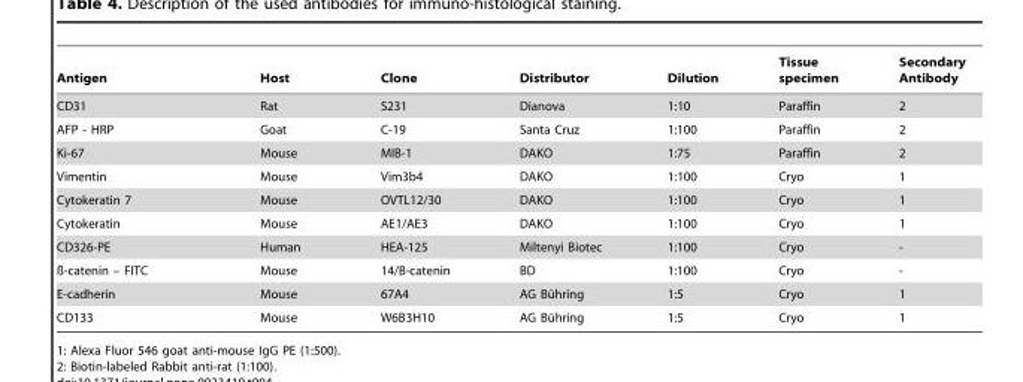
<table><thead><tr><td>Antigen</td><td>Host</td><td>Clone</td><td>Distributor</td><td>Dilution</td><td>Tissue specimen</td><td>Secondary Antibody</td></tr></thead><tbody><tr><td>CD31</td><td>Rat</td><td>S231</td><td>Dianova</td><td>1:10</td><td>Paraffin</td><td>2</td></tr><tr><td>AFP - HRP</td><td>Goat</td><td>C-19</td><td>Santa Cruz</td><td>1:100</td><td>Paraffin</td><td>2</td></tr><tr><td>Ki-67</td><td>Mouse</td><td>MIB-1</td><td>DAKO</td><td>1:75</td><td>Paraffin</td><td>2</td></tr><tr><td>Vimentin</td><td>Mouse</td><td>Vim3b4</td><td>DAKO</td><td>1:100</td><td>Cryo</td><td>1</td></tr><tr><td>Cytokeratin 7</td><td>Mouse</td><td>OVTL12/30</td><td>DAKO</td><td>1:100</td><td>Cryo</td><td>1</td></tr><tr><td>Cytokeratin</td><td>Mouse</td><td>AE1/AE3</td><td>DAKO</td><td>1:100</td><td>Cryo</td><td>1</td></tr><tr><td>CD326-PE</td><td>Human</td><td>HEA-125</td><td>Miltenyi Biotec</td><td>1:100</td><td>Cryo</td><td>-</td></tr><tr><td>ß-catenin – FITC</td><td>Mouse</td><td>14/B-catenin</td><td>BD</td><td>1:100</td><td>Cryo</td><td>-</td></tr><tr><td>E-cadherin</td><td>Mouse</td><td>67A4</td><td>AG Bu¨hring</td><td>1:5</td><td>Cryo</td><td>1</td></tr><tr><td>CD133</td><td>Mouse</td><td>W6B3H10</td><td>AG Bu¨hring</td><td>1:5</td><td>Cryo</td><td>1</td></tr></tbody></table>